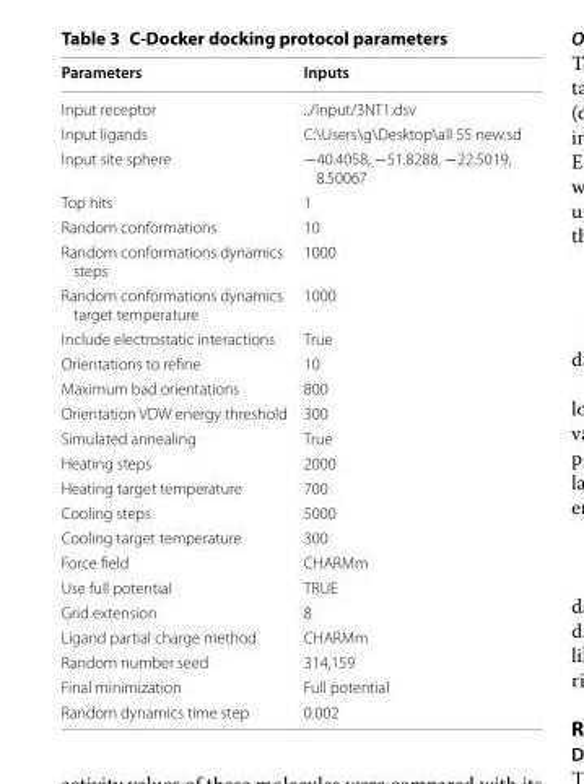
<table><thead><tr><td>Parameters</td><td>Inputs</td></tr></thead><tbody><tr><td>Input receptor</td><td>../Input/3NT1.dsv</td></tr><tr><td>Input ligands</td><td>C:�sers\g\Desktop\all 55 new.sd</td></tr><tr><td>Input site sphere</td><td>−40.4058, −51.8288, −22.5019, 8.50067</td></tr><tr><td>Top hits</td><td>1</td></tr><tr><td>Random conformations</td><td>10</td></tr><tr><td>Random conformations dynamics steps</td><td>1000</td></tr><tr><td>Random conformations dynamics target temperature</td><td>1000</td></tr><tr><td>Include electrostatic interactions</td><td>True</td></tr><tr><td>Orientations to refine</td><td>10</td></tr><tr><td>Maximum bad orientations</td><td>800</td></tr><tr><td>Orientation VDW energy threshold</td><td>300</td></tr><tr><td>Simulated annealing</td><td>True</td></tr><tr><td>Heating steps</td><td>2000</td></tr><tr><td>Heating target temperature</td><td>700</td></tr><tr><td>Cooling steps</td><td>5000</td></tr><tr><td>Cooling target temperature</td><td>300</td></tr><tr><td>Force field</td><td>CHARMm</td></tr><tr><td>Use full potential</td><td>TRUE</td></tr><tr><td>Grid extension</td><td>8</td></tr><tr><td>Ligand partial charge method</td><td>CHARMm</td></tr><tr><td>Random number seed</td><td>314,159</td></tr><tr><td>Final minimization</td><td>Full potential</td></tr><tr><td>Random dynamics time step</td><td>0.002</td></tr></tbody></table>